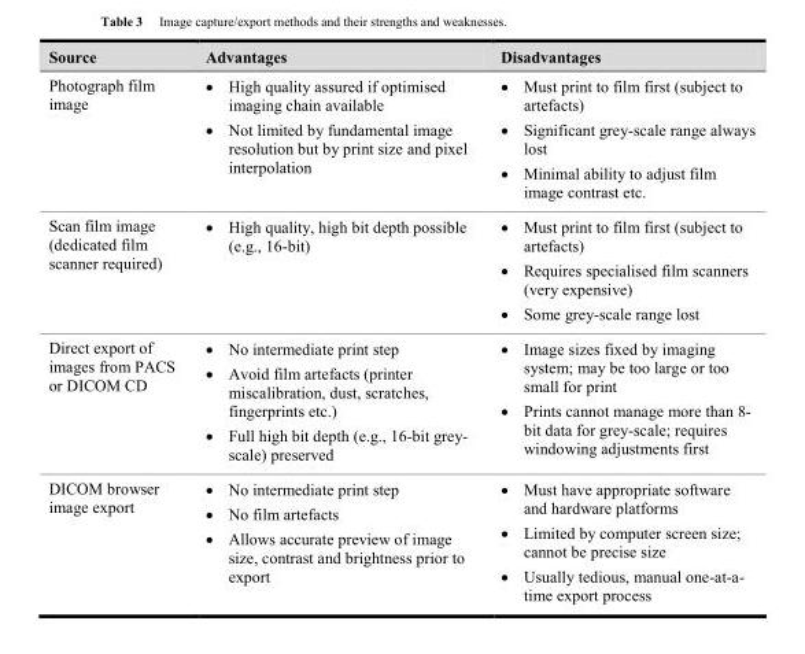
<table><thead><tr><td>Source</td><td>Advantages</td><td>Disadvantages</td></tr></thead><tbody><tr><td>Photograph film image</td><td>• High quality assured if optimised imaging chain available • Not limited by fundamental image resolution but by print size and pixel interpolation</td><td>• Must print to film first (subject to artefacts) • Significant grey-scale range always lost • Minimal ability to adjust film image contrast etc.</td></tr><tr><td>Scan film image (dedicated film scanner required)</td><td>• High quality, high bit depth possible (e.g., 16-bit)</td><td>• Must print to film first (subject to artefacts) • Requires specialised film scanners (very expensive) • Some grey-scale range lost</td></tr><tr><td>Direct export of images from PACS or DICOM CD</td><td>• No intermediate print step • Avoid film artefacts (printer miscalibration, dust, scratches, fingerprints etc.) • Full high bit depth (e.g., 16-bit grey- scale) preserved</td><td>• Image sizes fixed by imaging system; may be too large or too small for print • Prints cannot manage more than 8- bit data for grey-scale; requires windowing adjustments first</td></tr><tr><td>DICOM browser image export</td><td>• No intermediate print step • No film artefacts • Allows accurate preview of image size, contrast and brightness prior to export</td><td>• Must have appropriate software and hardware platforms • Limited by computer screen size; cannot be precise size • Usually tedious, manual one-at-a- time export process</td></tr></tbody></table>